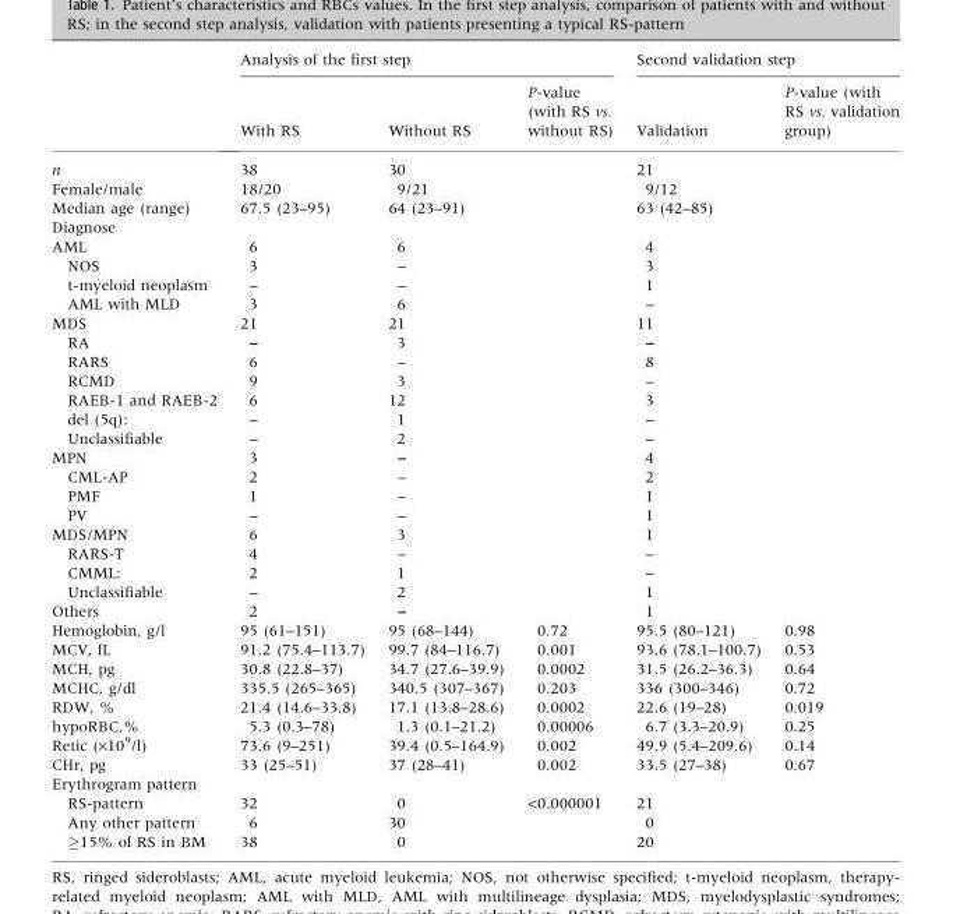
<table><thead><tr><td rowspan="2"></td><td colspan="3">Analysis of the first step</td><td colspan="2">Second validation step</td></tr><tr><td>With RS</td><td>Without RS</td><td>P-value (with RS vs. without RS)</td><td>Validation</td><td>P-value (with RS vs. validation group)</td></tr></thead><tbody><tr><td>n</td><td>38</td><td>30</td><td></td><td>21</td><td></td></tr><tr><td>Female/male</td><td>18/20</td><td>9/21</td><td></td><td>9/12</td><td></td></tr><tr><td>Median age (range)</td><td>67.5 (23–95)</td><td>64 (23–91)</td><td></td><td>63 (42–85)</td><td></td></tr><tr><td colspan="6">Diagnose</td></tr><tr><td>AML</td><td>6</td><td>6</td><td></td><td>4</td><td></td></tr><tr><td>NOS</td><td>3</td><td>–</td><td></td><td>3</td><td></td></tr><tr><td>t-myeloid neoplasm</td><td>–</td><td>–</td><td></td><td>1</td><td></td></tr><tr><td>AML with MLD</td><td>3</td><td>6</td><td></td><td>–</td><td></td></tr><tr><td>MDS</td><td>21</td><td>21</td><td></td><td>11</td><td></td></tr><tr><td>RA</td><td>–</td><td>3</td><td></td><td>–</td><td></td></tr><tr><td>RARS</td><td>6</td><td>–</td><td></td><td>8</td><td></td></tr><tr><td>RCMD</td><td>9</td><td>3</td><td></td><td>–</td><td></td></tr><tr><td>RAEB-1 and RAEB-2</td><td>6</td><td>12</td><td></td><td>3</td><td></td></tr><tr><td>del (5q):</td><td>–</td><td>1</td><td></td><td>–</td><td></td></tr><tr><td>Unclassifiable</td><td>–</td><td>2</td><td></td><td>–</td><td></td></tr><tr><td>MPN</td><td>3</td><td>–</td><td></td><td>4</td><td></td></tr><tr><td>CML-AP</td><td>2</td><td>–</td><td></td><td>2</td><td></td></tr><tr><td>PMF</td><td>1</td><td>–</td><td></td><td>1</td><td></td></tr><tr><td>PV</td><td>–</td><td>–</td><td></td><td>1</td><td></td></tr><tr><td>MDS/MPN</td><td>6</td><td>3</td><td></td><td>1</td><td></td></tr><tr><td>RARS-T</td><td>4</td><td>–</td><td></td><td>–</td><td></td></tr><tr><td>CMML:</td><td>2</td><td>1</td><td></td><td>–</td><td></td></tr><tr><td>Unclassifiable</td><td>–</td><td>2</td><td></td><td>1</td><td></td></tr><tr><td>Others</td><td>2</td><td>–</td><td></td><td>1</td><td></td></tr><tr><td>Hemoglobin, g/l</td><td>95 (61–151)</td><td>95 (68–144)</td><td>0.72</td><td>95.5 (80–121)</td><td>0.98</td></tr><tr><td>MCV, fL</td><td>91.2 (75.4–113.7)</td><td>99.7 (84–116.7)</td><td>0.001</td><td>93.6 (78.1–100.7)</td><td>0.53</td></tr><tr><td>MCH, pg</td><td>30.8 (22.8–37)</td><td>34.7 (27.6–39.9)</td><td>0.0002</td><td>31.5 (26.2–36.3)</td><td>0.64</td></tr><tr><td>MCHC, g/dl</td><td>335.5 (265–365)</td><td>340.5 (307–367)</td><td>0.203</td><td>336 (300–346)</td><td>0.72</td></tr><tr><td>RDW, %</td><td>21.4 (14.6–33.8)</td><td>17.1 (13.8–28.6)</td><td>0.0002</td><td>22.6 (19–28)</td><td>0.019</td></tr><tr><td>hypoRBC,%</td><td>5.3 (0.3–78)</td><td>1.3 (0.1–21.2)</td><td>0.00006</td><td>6.7 (3.3–20.9)</td><td>0.25</td></tr><tr><td>Retic (×10<sup>9</sup>/l)</td><td>73.6 (9–251)</td><td>39.4 (0.5–164.9)</td><td>0.002</td><td>49.9 (5.4–209.6)</td><td>0.14</td></tr><tr><td>CHr, pg</td><td>33 (25–51)</td><td>37 (28–41)</td><td>0.002</td><td>33.5 (27–38)</td><td>0.67</td></tr><tr><td colspan="6">Erythrogram pattern</td></tr><tr><td>RS-pattern</td><td>32</td><td>0</td><td>&lt;0.000001</td><td>21</td><td></td></tr><tr><td>Any other pattern</td><td>6</td><td>30</td><td></td><td>0</td><td></td></tr><tr><td>≥15% of RS in BM</td><td>38</td><td>0</td><td></td><td>20</td><td></td></tr></tbody></table>